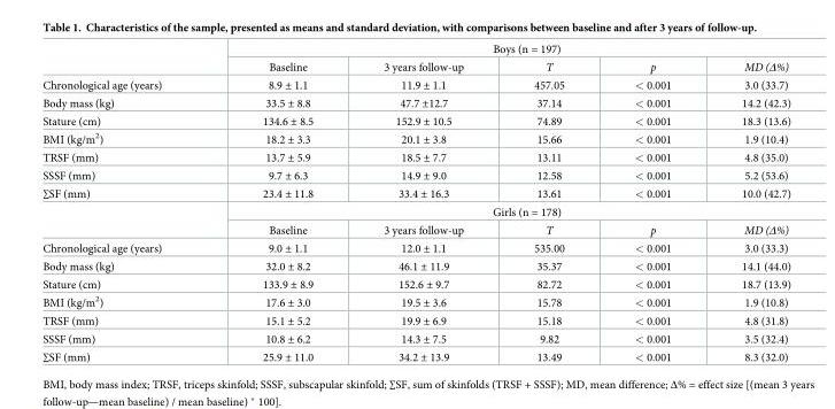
<table><thead><tr><td rowspan="2"></td><td colspan="5">Boys (n = 197)</td></tr><tr><td>Baseline</td><td>3 years follow-up</td><td>T</td><td>p</td><td>MD (Δ%)</td></tr></thead><tbody><tr><td>Chronological age (years)</td><td>8.9 ± 1.1</td><td>11.9 ± 1.1</td><td>457.05</td><td>&lt; 0.001</td><td>3.0 (33.7)</td></tr><tr><td>Body mass (kg)</td><td>33.5 ± 8.8</td><td>47.7 ±12.7</td><td>37.14</td><td>&lt; 0.001</td><td>14.2 (42.3)</td></tr><tr><td>Stature (cm)</td><td>134.6 ± 8.5</td><td>152.9 ± 10.5</td><td>74.89</td><td>&lt; 0.001</td><td>18.3 (13.6)</td></tr><tr><td>BMI (kg/m<sup>2</sup>)</td><td>18.2 ± 3.3</td><td>20.1 ± 3.8</td><td>15.66</td><td>&lt; 0.001</td><td>1.9 (10.4)</td></tr><tr><td>TRSF (mm)</td><td>13.7 ± 5.9</td><td>18.5 ± 7.7</td><td>13.11</td><td>&lt; 0.001</td><td>4.8 (35.0)</td></tr><tr><td>SSSF (mm)</td><td>9.7 ± 6.3</td><td>14.9 ± 9.0</td><td>12.58</td><td>&lt; 0.001</td><td>5.2 (53.6)</td></tr><tr><td rowspan="3">∑SF (mm)</td><td>23.4 ± 11.8</td><td>33.4 ± 16.3</td><td>13.61</td><td>&lt; 0.001</td><td>10.0 (42.7)</td></tr><tr><td colspan="5">Girls (n = 178)</td></tr><tr><td>Baseline</td><td>3 years follow-up</td><td>T</td><td>p</td><td>MD (Δ%)</td></tr><tr><td>Chronological age (years)</td><td>9.0 ± 1.1</td><td>12.0 ± 1.1</td><td>535.00</td><td>&lt; 0.001</td><td>3.0 (33.3)</td></tr><tr><td>Body mass (kg)</td><td>32.0 ± 8.2</td><td>46.1 ± 11.9</td><td>35.37</td><td>&lt; 0.001</td><td>14.1 (44.0)</td></tr><tr><td>Stature (cm)</td><td>133.9 ± 8.9</td><td>152.6 ± 9.7</td><td>82.72</td><td>&lt; 0.001</td><td>18.7 (13.9)</td></tr><tr><td>BMI (kg/m<sup>2</sup>)</td><td>17.6 ± 3.0</td><td>19.5 ± 3.6</td><td>15.78</td><td>&lt; 0.001</td><td>1.9 (10.8)</td></tr><tr><td>TRSF (mm)</td><td>15.1 ± 5.2</td><td>19.9 ± 6.9</td><td>15.18</td><td>&lt; 0.001</td><td>4.8 (31.8)</td></tr><tr><td>SSSF (mm)</td><td>10.8 ± 6.2</td><td>14.3 ± 7.5</td><td>9.82</td><td>&lt; 0.001</td><td>3.5 (32.4)</td></tr><tr><td>∑SF (mm)</td><td>25.9 ± 11.0</td><td>34.2 ± 13.9</td><td>13.49</td><td>&lt; 0.001</td><td>8.3 (32.0)</td></tr></tbody></table>